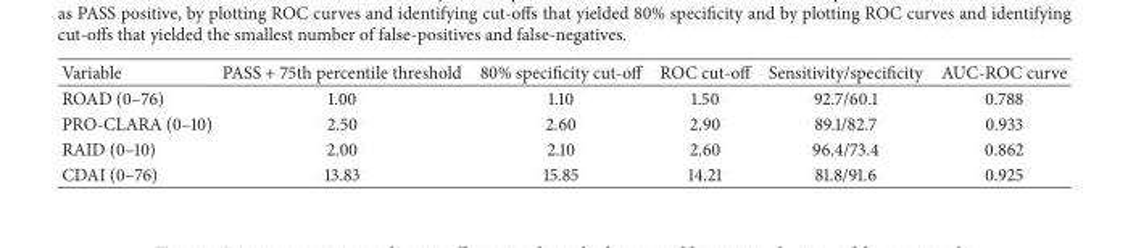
<table><thead><tr><td>Variable</td><td>PASS + 75th percentile threshold</td><td>80% specificity cut-off</td><td>ROC cut-off</td><td>Sensitivity/specificity</td><td>AUC-ROC curve</td></tr></thead><tbody><tr><td>ROAD (0–76)</td><td>1.00</td><td>1.10</td><td>1.50</td><td>92.7/60.1</td><td>0.788</td></tr><tr><td>PRO-CLARA (0–10)</td><td>2.50</td><td>2.60</td><td>2.90</td><td>89.1/82.7</td><td>0.933</td></tr><tr><td>RAID (0–10)</td><td>2.00</td><td>2.10</td><td>2.60</td><td>96.4/73.4</td><td>0.862</td></tr><tr><td>CDAI (0–76)</td><td>13.83</td><td>15.85</td><td>14.21</td><td>81.8/91.6</td><td>0.925</td></tr></tbody></table>